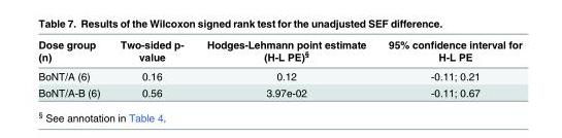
<table><thead><tr><td>Dose group (n)</td><td>Two-sided p- value</td><td>Hodges-Lehmann point estimate (H-L PE)<sup>§</sup></td><td>95% confidence interval for H-L PE</td></tr></thead><tbody><tr><td>BoNT/A (6)</td><td>0.16</td><td>0.12</td><td>-0.11; 0.21</td></tr><tr><td>BoNT/A-B (6)</td><td>0.56</td><td>3.97e-02</td><td>-0.11; 0.67</td></tr></tbody></table>